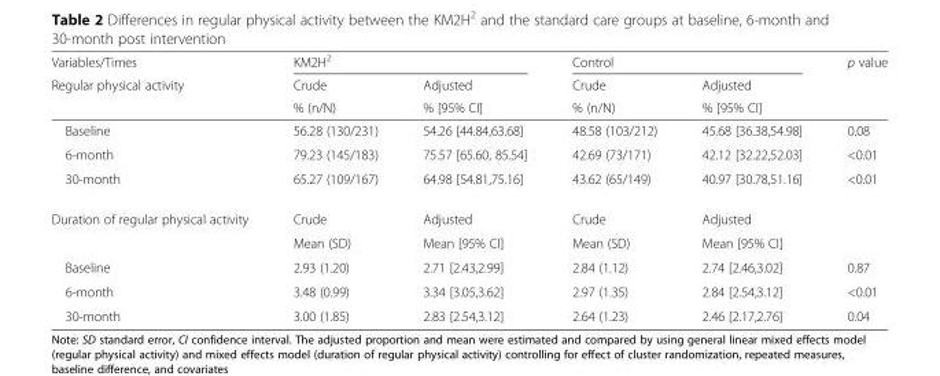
<table><thead><tr><td rowspan="3">Variables/Times Regular physical activity</td><td colspan="2">KM2H<sup>2</sup></td><td colspan="2">Control</td><td rowspan="3">p value</td></tr><tr><td rowspan="2">Crude % (n/N)</td><td rowspan="2">Adjusted % [95% CI]</td><td rowspan="2">Crude % (n/N)</td><td rowspan="2">Adjusted % [95% CI]</td></tr><tr></tr></thead><tbody><tr><td>Baseline</td><td>56.28 (130/231)</td><td>54.26 [44.84,63.68]</td><td>48.58 (103/212)</td><td>45.68 [36.38,54.98]</td><td>0.08</td></tr><tr><td>6-month</td><td>79.23 (145/183)</td><td>75.57 [65.60, 85.54]</td><td>42.69 (73/171)</td><td>42.12 [32.22,52.03]</td><td>&lt;0.01</td></tr><tr><td>30-month</td><td>65.27 (109/167)</td><td>64.98 [54.81,75.16]</td><td>43.62 (65/149)</td><td>40.97 [30.78,51.16]</td><td>&lt;0.01</td></tr><tr><td rowspan="2">Duration of regular physical activity</td><td>Crude</td><td>Adjusted</td><td>Crude</td><td>Adjusted</td><td rowspan="2"></td></tr><tr><td>Mean (SD)</td><td>Mean [95% CI]</td><td>Mean (SD)</td><td>Mean [95% CI]</td></tr><tr><td>Baseline</td><td>2.93 (1.20)</td><td>2.71 [2.43,2.99]</td><td>2.84 (1.12)</td><td>2.74 [2.46,3.02]</td><td>0.87</td></tr><tr><td>6-month</td><td>3.48 (0.99)</td><td>3.34 [3.05,3.62]</td><td>2.97 (1.35)</td><td>2.84 [2.54,3.12]</td><td>&lt;0.01</td></tr><tr><td>30-month</td><td>3.00 (1.85)</td><td>2.83 [2.54,3.12]</td><td>2.64 (1.23)</td><td>2.46 [2.17,2.76]</td><td>0.04</td></tr></tbody></table>